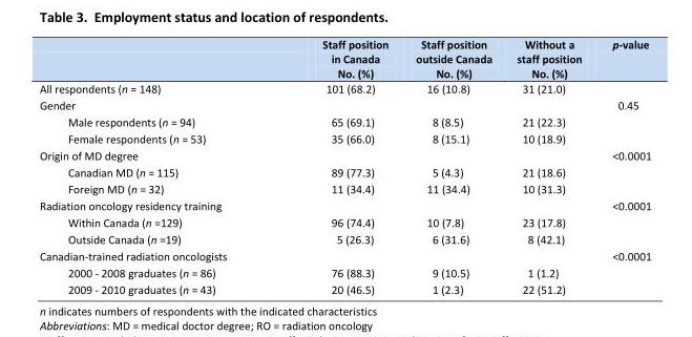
<table><thead><tr><td></td><td>Staff position in Canada No. (%)</td><td>Staff position outside Canada No. (%)</td><td>Without a staff position No. (%)</td><td>p-value</td></tr></thead><tbody><tr><td>All respondents (n = 148)</td><td>101 (68.2)</td><td>16 (10.8)</td><td>31 (21.0)</td><td></td></tr><tr><td>Gender</td><td></td><td></td><td></td><td>0.45</td></tr><tr><td>Male respondents (n = 94)</td><td>65 (69.1)</td><td>8 (8.5)</td><td>21 (22.3)</td><td></td></tr><tr><td>Female respondents (n = 53)</td><td>35 (66.0)</td><td>8 (15.1)</td><td>10 (18.9)</td><td></td></tr><tr><td>Origin of MD degree</td><td></td><td></td><td></td><td>&lt;0.0001</td></tr><tr><td>Canadian MD (n = 115)</td><td>89 (77.3)</td><td>5 (4.3)</td><td>21 (18.6)</td><td></td></tr><tr><td>Foreign MD (n = 32)</td><td>11 (34.4)</td><td>11 (34.4)</td><td>10 (31.3)</td><td></td></tr><tr><td>Radiation oncology residency training</td><td></td><td></td><td></td><td>&lt;0.0001</td></tr><tr><td>Within Canada (n =129)</td><td>96 (74.4)</td><td>10 (7.8)</td><td>23 (17.8)</td><td></td></tr><tr><td>Outside Canada (n =19)</td><td>5 (26.3)</td><td>6 (31.6)</td><td>8 (42.1)</td><td></td></tr><tr><td>Canadian-trained radiation oncologists</td><td></td><td></td><td></td><td>&lt;0.0001</td></tr><tr><td>2000 - 2008 graduates (n = 86)</td><td>76 (88.3)</td><td>9 (10.5)</td><td>1 (1.2)</td><td></td></tr><tr><td>2009 - 2010 graduates (n = 43)</td><td>20 (46.5)</td><td>1 (2.3)</td><td>22 (51.2)</td><td></td></tr></tbody></table>